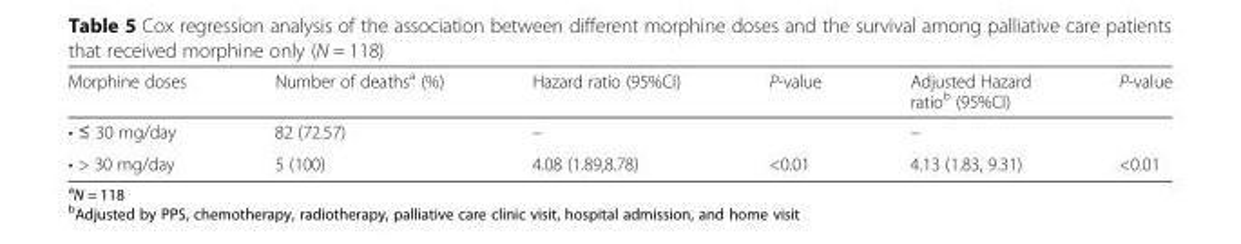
<table><thead><tr><td>Morphine doses</td><td>Number of deaths<sup>a</sup> (%)</td><td>Hazard ratio (95%CI)</td><td>P-value</td><td>Adjusted Hazard ratio<sup>b</sup> (95%CI)</td><td>P-value</td></tr></thead><tbody><tr><td>• ≤ 30 mg/day</td><td>82 (72.57)</td><td>–</td><td></td><td>–</td><td></td></tr><tr><td>• &gt; 30 mg/day</td><td>5 (100)</td><td>4.08 (1.89,8.78)</td><td>&lt;0.01</td><td>4.13 (1.83, 9.31)</td><td>&lt;0.01</td></tr></tbody></table>